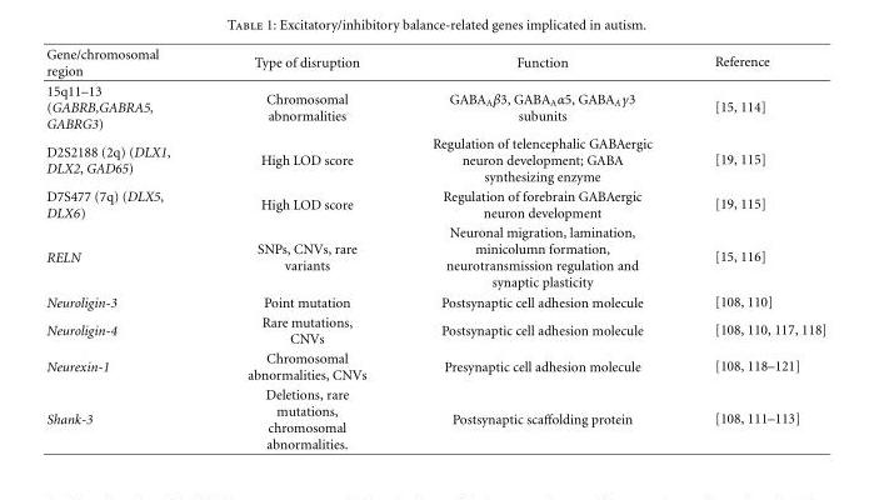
<table><thead><tr><td>Gene/chromosomal region</td><td>Type of disruption</td><td>Function</td><td>Reference</td></tr></thead><tbody><tr><td>15q11–13 (GABRB,GABRA5, GABRG3)</td><td>Chromosomal abnormalities</td><td>GABA<sub>A</sub>β3, GABA<sub>A</sub>α5, GABA<sub>A</sub>γ3 subunits</td><td>[15, 114]</td></tr><tr><td>D2S2188 (2q) (DLX1, DLX2, GAD65)</td><td>High LOD score</td><td>Regulation of telencephalic GABAergic neuron development; GABA synthesizing enzyme</td><td>[19, 115]</td></tr><tr><td>D7S477 (7q) (DLX5, DLX6)</td><td>High LOD score</td><td>Regulation of forebrain GABAergic neuron development</td><td>[19, 115]</td></tr><tr><td>RELN</td><td>SNPs, CNVs, rare variants</td><td>Neuronal migration, lamination, minicolumn formation, neurotransmission regulation and synaptic plasticity</td><td>[15, 116]</td></tr><tr><td>Neuroligin-3</td><td>Point mutation</td><td>Postsynaptic cell adhesion molecule</td><td>[108, 110]</td></tr><tr><td>Neuroligin-4</td><td>Rare mutations, CNVs</td><td>Postsynaptic cell adhesion molecule</td><td>[108, 110, 117, 118]</td></tr><tr><td>Neurexin-1</td><td>Chromosomal abnormalities, CNVs</td><td>Presynaptic cell adhesion molecule</td><td>[108, 118–121]</td></tr><tr><td>Shank-3</td><td>Deletions, rare mutations, chromosomal abnormalities.</td><td>Postsynaptic scaffolding protein</td><td>[108, 111–113]</td></tr></tbody></table>